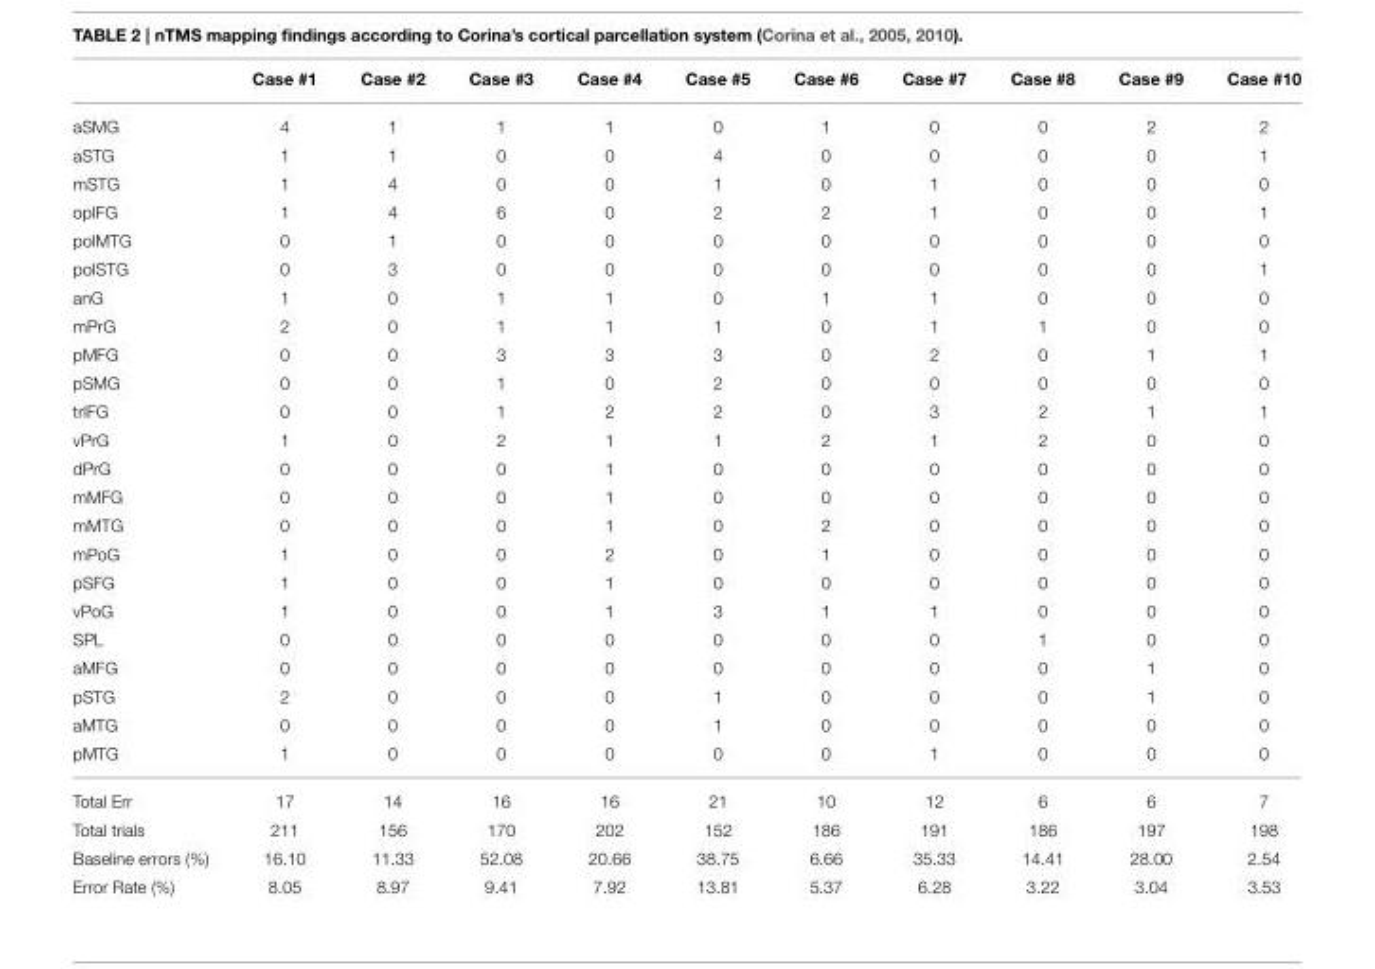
<table><thead><tr><td></td><td>Case #1</td><td>Case #2</td><td>Case #3</td><td>Case #4</td><td>Case #5</td><td>Case #6</td><td>Case #7</td><td>Case #8</td><td>Case #9</td><td>Case #10</td></tr></thead><tbody><tr><td>aSMG</td><td>4</td><td>1</td><td>1</td><td>1</td><td>0</td><td>1</td><td>0</td><td>0</td><td>2</td><td>2</td></tr><tr><td>aSTG</td><td>1</td><td>1</td><td>0</td><td>0</td><td>4</td><td>0</td><td>0</td><td>0</td><td>0</td><td>1</td></tr><tr><td>mSTG</td><td>1</td><td>4</td><td>0</td><td>0</td><td>1</td><td>0</td><td>1</td><td>0</td><td>0</td><td>0</td></tr><tr><td>opIFG</td><td>1</td><td>4</td><td>6</td><td>0</td><td>2</td><td>2</td><td>1</td><td>0</td><td>0</td><td>1</td></tr><tr><td>poIMTG</td><td>0</td><td>1</td><td>0</td><td>0</td><td>0</td><td>0</td><td>0</td><td>0</td><td>0</td><td>0</td></tr><tr><td>poISTG</td><td>0</td><td>3</td><td>0</td><td>0</td><td>0</td><td>0</td><td>0</td><td>0</td><td>0</td><td>1</td></tr><tr><td>anG</td><td>1</td><td>0</td><td>1</td><td>1</td><td>0</td><td>1</td><td>1</td><td>0</td><td>0</td><td>0</td></tr><tr><td>mPrG</td><td>2</td><td>0</td><td>1</td><td>1</td><td>1</td><td>0</td><td>1</td><td>1</td><td>0</td><td>0</td></tr><tr><td>pMFG</td><td>0</td><td>0</td><td>3</td><td>3</td><td>3</td><td>0</td><td>2</td><td>0</td><td>1</td><td>1</td></tr><tr><td>pSMG</td><td>0</td><td>0</td><td>1</td><td>0</td><td>2</td><td>0</td><td>0</td><td>0</td><td>0</td><td>0</td></tr><tr><td>trIFG</td><td>0</td><td>0</td><td>1</td><td>2</td><td>2</td><td>0</td><td>3</td><td>2</td><td>1</td><td>1</td></tr><tr><td>vPrG</td><td>1</td><td>0</td><td>2</td><td>1</td><td>1</td><td>2</td><td>1</td><td>2</td><td>0</td><td>0</td></tr><tr><td>dPrG</td><td>0</td><td>0</td><td>0</td><td>1</td><td>0</td><td>0</td><td>0</td><td>0</td><td>0</td><td>0</td></tr><tr><td>mMFG</td><td>0</td><td>0</td><td>0</td><td>1</td><td>0</td><td>0</td><td>0</td><td>0</td><td>0</td><td>0</td></tr><tr><td>mMTG</td><td>0</td><td>0</td><td>0</td><td>1</td><td>0</td><td>2</td><td>0</td><td>0</td><td>0</td><td>0</td></tr><tr><td>mPoG</td><td>1</td><td>0</td><td>0</td><td>2</td><td>0</td><td>1</td><td>0</td><td>0</td><td>0</td><td>0</td></tr><tr><td>pSFG</td><td>1</td><td>0</td><td>0</td><td>1</td><td>0</td><td>0</td><td>0</td><td>0</td><td>0</td><td>0</td></tr><tr><td>vPoG</td><td>1</td><td>0</td><td>0</td><td>1</td><td>3</td><td>1</td><td>1</td><td>0</td><td>0</td><td>0</td></tr><tr><td>SPL</td><td>0</td><td>0</td><td>0</td><td>0</td><td>0</td><td>0</td><td>0</td><td>1</td><td>0</td><td>0</td></tr><tr><td>aMFG</td><td>0</td><td>0</td><td>0</td><td>0</td><td>0</td><td>0</td><td>0</td><td>0</td><td>1</td><td>0</td></tr><tr><td>pSTG</td><td>2</td><td>0</td><td>0</td><td>0</td><td>1</td><td>0</td><td>0</td><td>0</td><td>1</td><td>0</td></tr><tr><td>aMTG</td><td>0</td><td>0</td><td>0</td><td>0</td><td>1</td><td>0</td><td>0</td><td>0</td><td>0</td><td>0</td></tr><tr><td>pMTG</td><td>1</td><td>0</td><td>0</td><td>0</td><td>0</td><td>0</td><td>1</td><td>0</td><td>0</td><td>0</td></tr><tr><td>Total Err</td><td>17</td><td>14</td><td>16</td><td>16</td><td>21</td><td>10</td><td>12</td><td>6</td><td>6</td><td>7</td></tr><tr><td>Total trials</td><td>211</td><td>156</td><td>170</td><td>202</td><td>152</td><td>186</td><td>191</td><td>186</td><td>197</td><td>198</td></tr><tr><td>Baseline errors (%)</td><td>16.10</td><td>11.33</td><td>52.08</td><td>20.66</td><td>38.75</td><td>6.66</td><td>35.33</td><td>14.41</td><td>28.00</td><td>2.54</td></tr><tr><td>Error Rate (%)</td><td>8.05</td><td>8.97</td><td>9.41</td><td>7.92</td><td>13.81</td><td>5.37</td><td>6.28</td><td>3.22</td><td>3.04</td><td>3.53</td></tr></tbody></table>